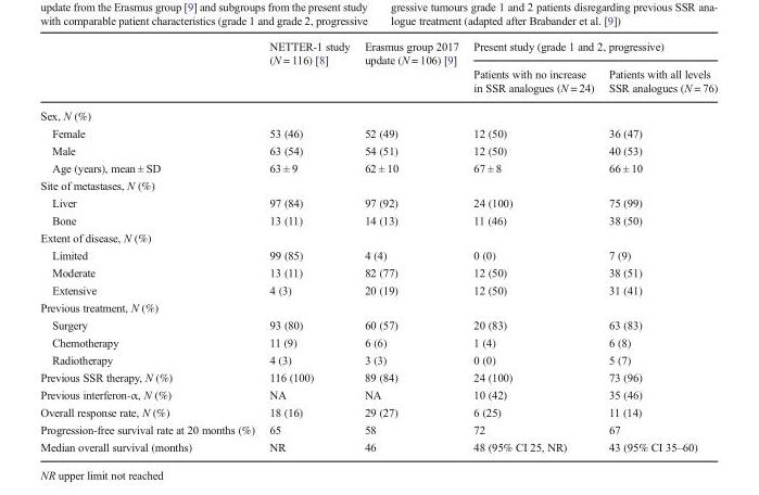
<table><thead><tr><td rowspan="2"></td><td rowspan="2">NETTER-1 study (N = 116) [8]</td><td rowspan="2">Erasmus group 2017 update (N = 106) [9]</td><td colspan="2">Present study (grade 1 and 2, progressive)</td></tr><tr><td>Patients with no increase in SSR analogues (N = 24)</td><td>Patients with all levels SSR analogues (N = 76)</td></tr></thead><tbody><tr><td colspan="5">Sex, N (%)</td></tr><tr><td>Female</td><td>53 (46)</td><td>52 (49)</td><td>12 (50)</td><td>36 (47)</td></tr><tr><td>Male</td><td>63 (54)</td><td>54 (51)</td><td>12 (50)</td><td>40 (53)</td></tr><tr><td>Age (years), mean ± SD</td><td>63 ± 9</td><td>62 ± 10</td><td>67 ± 8</td><td>66 ± 10</td></tr><tr><td colspan="5">Site of metastases, N (%)</td></tr><tr><td>Liver</td><td>97 (84)</td><td>97 (92)</td><td>24 (100)</td><td>75 (99)</td></tr><tr><td>Bone</td><td>13 (11)</td><td>14 (13)</td><td>11 (46)</td><td>38 (50)</td></tr><tr><td colspan="5">Extent of disease, N (%)</td></tr><tr><td>Limited</td><td>99 (85)</td><td>4 (4)</td><td>0 (0)</td><td>7 (9)</td></tr><tr><td>Moderate</td><td>13 (11)</td><td>82 (77)</td><td>12 (50)</td><td>38 (51)</td></tr><tr><td>Extensive</td><td>4 (3)</td><td>20 (19)</td><td>12 (50)</td><td>31 (41)</td></tr><tr><td colspan="5">Previous treatment, N (%)</td></tr><tr><td>Surgery</td><td>93 (80)</td><td>60 (57)</td><td>20 (83)</td><td>63 (83)</td></tr><tr><td>Chemotherapy</td><td>11 (9)</td><td>6 (6)</td><td>1 (4)</td><td>6 (8)</td></tr><tr><td>Radiotherapy</td><td>4 (3)</td><td>3 (3)</td><td>0 (0)</td><td>5 (7)</td></tr><tr><td>Previous SSR therapy, N (%)</td><td>116 (100)</td><td>89 (84)</td><td>24 (100)</td><td>73 (96)</td></tr><tr><td>Previous interferon-α, N (%)</td><td>NA</td><td>NA</td><td>10 (42)</td><td>35 (46)</td></tr><tr><td>Overall response rate, N (%)</td><td>18 (16)</td><td>29 (27)</td><td>6 (25)</td><td>11 (14)</td></tr><tr><td>Progression-free survival rate at 20 months (%)</td><td>65</td><td>58</td><td>72</td><td>67</td></tr><tr><td>Median overall survival (months)</td><td>NR</td><td>46</td><td>48 (95% CI 25, NR)</td><td>43 (95% CI 35–60)</td></tr></tbody></table>